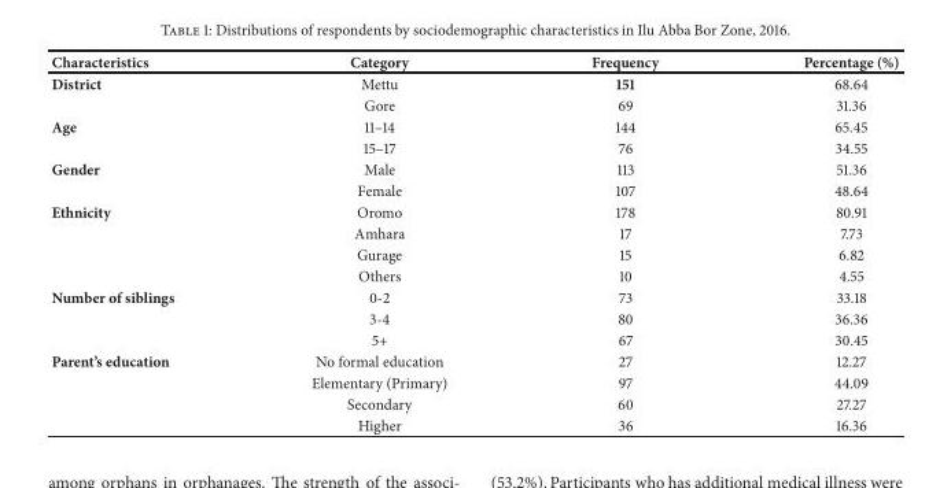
<table><thead><tr><td>Characteristics</td><td>Category</td><td>Frequency</td><td>Percentage (%)</td></tr></thead><tbody><tr><td rowspan="2">District</td><td>Mettu</td><td>151</td><td>68.64</td></tr><tr><td>Gore</td><td>69</td><td>31.36</td></tr><tr><td rowspan="2">Age</td><td>11–14</td><td>144</td><td>65.45</td></tr><tr><td>15–17</td><td>76</td><td>34.55</td></tr><tr><td rowspan="2">Gender</td><td>Male</td><td>113</td><td>51.36</td></tr><tr><td>Female</td><td>107</td><td>48.64</td></tr><tr><td rowspan="4">Ethnicity</td><td>Oromo</td><td>178</td><td>80.91</td></tr><tr><td>Amhara</td><td>17</td><td>7.73</td></tr><tr><td>Gurage</td><td>15</td><td>6.82</td></tr><tr><td>Others</td><td>10</td><td>4.55</td></tr><tr><td rowspan="3">Number of siblings</td><td>0-2</td><td>73</td><td>33.18</td></tr><tr><td>3-4</td><td>80</td><td>36.36</td></tr><tr><td>5+</td><td>67</td><td>30.45</td></tr><tr><td rowspan="4">Parent’s education</td><td>No formal education</td><td>27</td><td>12.27</td></tr><tr><td>Elementary (Primary)</td><td>97</td><td>44.09</td></tr><tr><td>Secondary</td><td>60</td><td>27.27</td></tr><tr><td>Higher</td><td>36</td><td>16.36</td></tr></tbody></table>